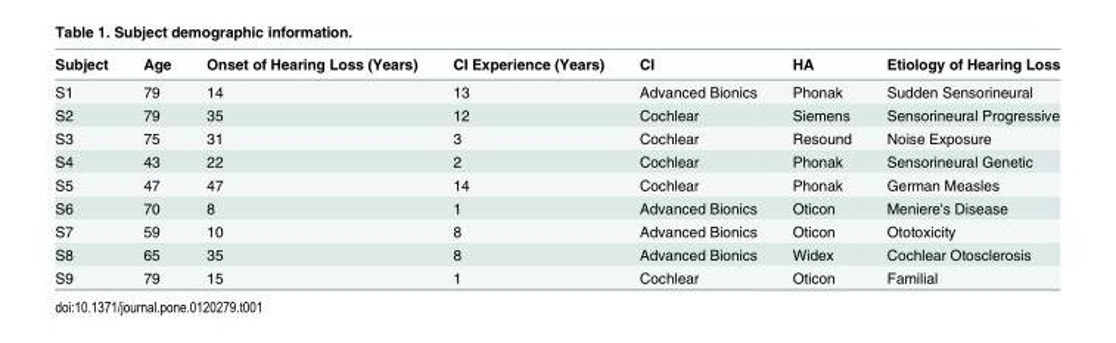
<table><thead><tr><td>Subject</td><td>Age</td><td>Onset of Hearing Loss (Years)</td><td>CI Experience (Years)</td><td>CI</td><td>HA</td><td>Etiology of Hearing Loss</td></tr></thead><tbody><tr><td>S1</td><td>79</td><td>14</td><td>13</td><td>Advanced Bionics</td><td>Phonak</td><td>Sudden Sensorineural</td></tr><tr><td>S2</td><td>79</td><td>35</td><td>12</td><td>Cochlear</td><td>Siemens</td><td>Sensorineural Progressive</td></tr><tr><td>S3</td><td>75</td><td>31</td><td>3</td><td>Cochlear</td><td>Resound</td><td>Noise Exposure</td></tr><tr><td>S4</td><td>43</td><td>22</td><td>2</td><td>Cochlear</td><td>Phonak</td><td>Sensorineural Genetic</td></tr><tr><td>S5</td><td>47</td><td>47</td><td>14</td><td>Cochlear</td><td>Phonak</td><td>German Measles</td></tr><tr><td>S6</td><td>70</td><td>8</td><td>1</td><td>Advanced Bionics</td><td>Oticon</td><td>Meniere&#x27;s Disease</td></tr><tr><td>S7</td><td>59</td><td>10</td><td>8</td><td>Advanced Bionics</td><td>Oticon</td><td>Ototoxicity</td></tr><tr><td>S8</td><td>65</td><td>35</td><td>8</td><td>Advanced Bionics</td><td>Widex</td><td>Cochlear Otosclerosis</td></tr><tr><td>S9</td><td>79</td><td>15</td><td>1</td><td>Cochlear</td><td>Oticon</td><td>Familial</td></tr></tbody></table>